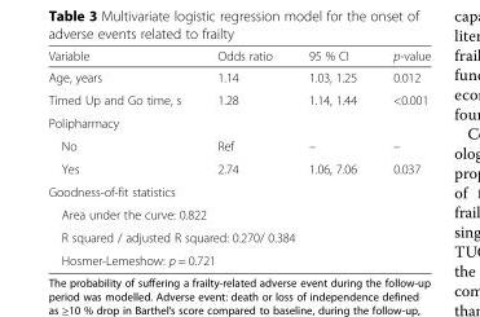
<table><thead><tr><td>Variable</td><td>Odds ratio</td><td>95 % CI</td><td>p-value</td></tr></thead><tbody><tr><td>Age, years</td><td>1.14</td><td>1.03, 1.25</td><td>0.012</td></tr><tr><td>Timed Up and Go time, s</td><td>1.28</td><td>1.14, 1.44</td><td>&lt;0.001</td></tr><tr><td colspan="4">Polipharmacy</td></tr><tr><td>No</td><td>Ref</td><td>–</td><td>–</td></tr><tr><td>Yes</td><td>2.74</td><td>1.06, 7.06</td><td>0.037</td></tr><tr><td colspan="4">Goodness-of-fit statistics</td></tr><tr><td colspan="4">Area under the curve: 0.822</td></tr><tr><td colspan="4">R squared / adjusted R squared: 0.270/ 0.384</td></tr><tr><td colspan="4">Hosmer-Lemeshow: p = 0.721</td></tr></tbody></table>